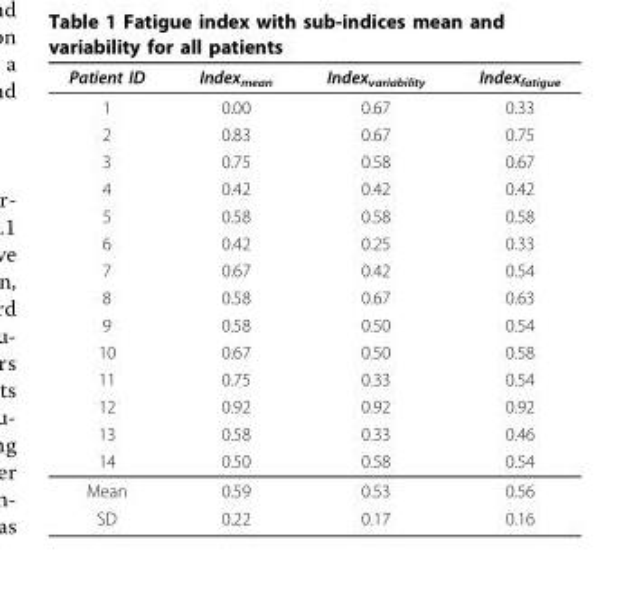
<table><thead><tr><td>Patient ID</td><td>Index<sub>mean</sub></td><td>Index<sub>variability</sub></td><td>Index<sub>fatigue</sub></td></tr></thead><tbody><tr><td>1</td><td>0.00</td><td>0.67</td><td>0.33</td></tr><tr><td>2</td><td>0.83</td><td>0.67</td><td>0.75</td></tr><tr><td>3</td><td>0.75</td><td>0.58</td><td>0.67</td></tr><tr><td>4</td><td>0.42</td><td>0.42</td><td>0.42</td></tr><tr><td>5</td><td>0.58</td><td>0.58</td><td>0.58</td></tr><tr><td>6</td><td>0.42</td><td>0.25</td><td>0.33</td></tr><tr><td>7</td><td>0.67</td><td>0.42</td><td>0.54</td></tr><tr><td>8</td><td>0.58</td><td>0.67</td><td>0.63</td></tr><tr><td>9</td><td>0.58</td><td>0.50</td><td>0.54</td></tr><tr><td>10</td><td>0.67</td><td>0.50</td><td>0.58</td></tr><tr><td>11</td><td>0.75</td><td>0.33</td><td>0.54</td></tr><tr><td>12</td><td>0.92</td><td>0.92</td><td>0.92</td></tr><tr><td>13</td><td>0.58</td><td>0.33</td><td>0.46</td></tr><tr><td>14</td><td>0.50</td><td>0.58</td><td>0.54</td></tr><tr><td>Mean</td><td>0.59</td><td>0.53</td><td>0.56</td></tr><tr><td>SD</td><td>0.22</td><td>0.17</td><td>0.16</td></tr></tbody></table>